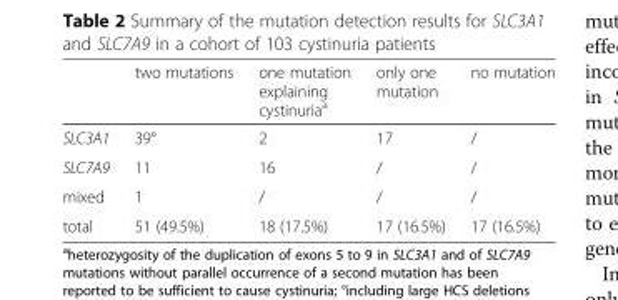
<table><thead><tr><td></td><td>two mutations</td><td>one mutation explaining cystinuria<sup>a</sup></td><td>only one mutation</td><td>no mutation</td></tr></thead><tbody><tr><td>SLC3A1</td><td>39°</td><td>2</td><td>17</td><td>/</td></tr><tr><td>SLC7A9</td><td>11</td><td>16</td><td>/</td><td>/</td></tr><tr><td>mixed</td><td>1</td><td>/</td><td>/</td><td>/</td></tr><tr><td>total</td><td>51 (49.5%)</td><td>18 (17.5%)</td><td>17 (16.5%)</td><td>17 (16.5%)</td></tr></tbody></table>